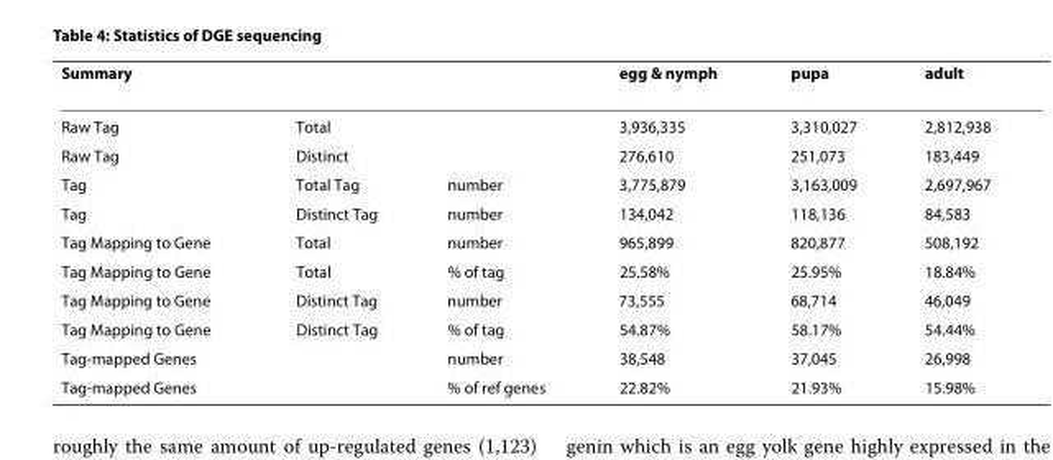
<table><thead><tr><td>Summary</td><td></td><td></td><td>egg &amp; nymph</td><td>pupa</td><td>adult</td></tr></thead><tbody><tr><td>Raw Tag</td><td>Total</td><td></td><td>3,936,335</td><td>3,310,027</td><td>2,812,938</td></tr><tr><td>Raw Tag</td><td>Distinct</td><td></td><td>276,610</td><td>251,073</td><td>183,449</td></tr><tr><td>Tag</td><td>Total Tag</td><td>number</td><td>3,775,879</td><td>3,163,009</td><td>2,697,967</td></tr><tr><td>Tag</td><td>Distinct Tag</td><td>number</td><td>134,042</td><td>118,136</td><td>84,583</td></tr><tr><td>Tag Mapping to Gene</td><td>Total</td><td>number</td><td>965,899</td><td>820,877</td><td>508,192</td></tr><tr><td>Tag Mapping to Gene</td><td>Total</td><td>% of tag</td><td>25.58%</td><td>25.95%</td><td>18.84%</td></tr><tr><td>Tag Mapping to Gene</td><td>Distinct Tag</td><td>number</td><td>73,555</td><td>68,714</td><td>46,049</td></tr><tr><td>Tag Mapping to Gene</td><td>Distinct Tag</td><td>% of tag</td><td>54.87%</td><td>58.17%</td><td>54.44%</td></tr><tr><td>Tag-mapped Genes</td><td></td><td>number</td><td>38,548</td><td>37,045</td><td>26,998</td></tr><tr><td>Tag-mapped Genes</td><td></td><td>% of ref genes</td><td>22.82%</td><td>21.93%</td><td>15.98%</td></tr></tbody></table>